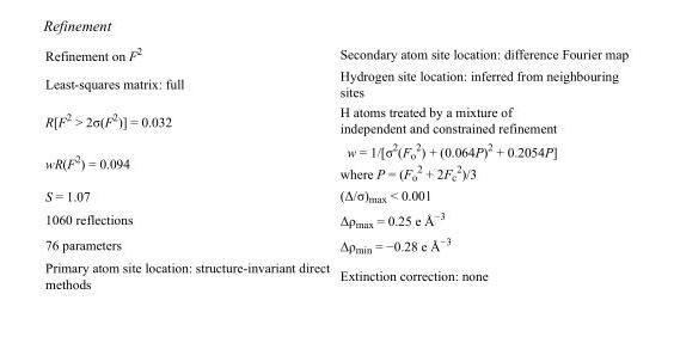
<table><tbody><tr><td>Refinement on F<sup>2</sup></td><td>Secondary atom site location: difference Fourier map</td></tr><tr><td>Least-squares matrix: full</td><td>Hydrogen site location: inferred from neighbouring sites</td></tr><tr><td>R[F<sup>2</sup> &gt; 2σ(F<sup>2</sup>)] = 0.032</td><td>H atoms treated by a mixture of independent and constrained refinement</td></tr><tr><td>wR(F<sup>2</sup>) = 0.094</td><td>w = 1/[σ<sup>2</sup>(F<sub>o</sub> <sup>2</sup>) + (0.064P)<sup>2</sup> + 0.2054P] where P = (F<sub>o</sub> <sup>2</sup> + 2F<sub>c</sub> <sup>2</sup>)/3</td></tr><tr><td>S = 1.07</td><td>(Δ/σ)<sub>max</sub> &lt; 0.001</td></tr><tr><td>1060 reflections</td><td>Δρ<sub>max</sub> = 0.25 e Å<sup>−3</sup></td></tr><tr><td>76 parameters</td><td>Δρ<sub>min</sub> = −0.28 e Å<sup>−3</sup></td></tr><tr><td>Primary atom site location: structure-invariant direct methods</td><td>Extinction correction: none</td></tr></tbody></table>